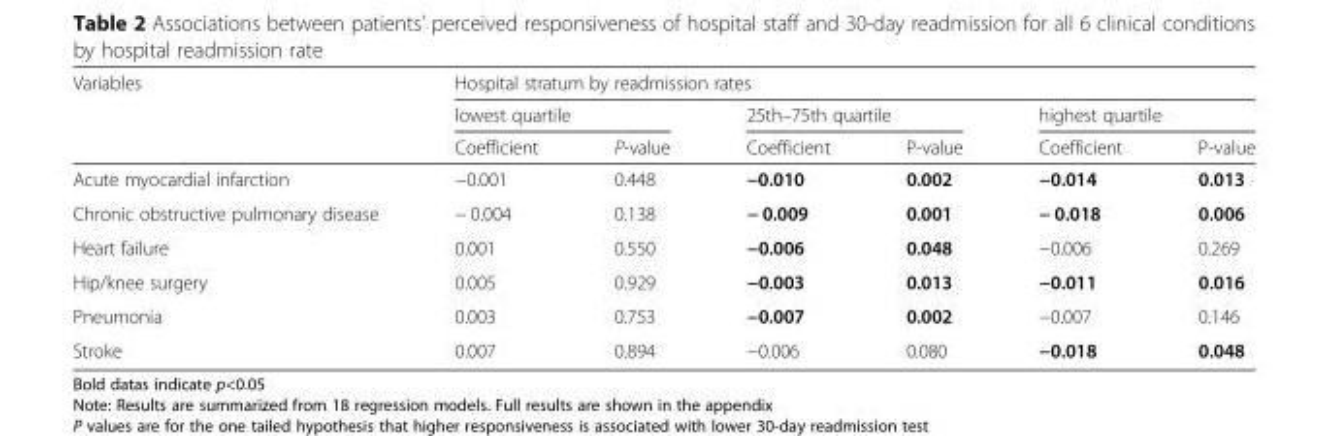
<table><thead><tr><td rowspan="3">Variables</td><td colspan="6">Hospital stratum by readmission rates</td></tr><tr><td colspan="2">lowest quartile</td><td colspan="2">25th–75th quartile</td><td colspan="2">highest quartile</td></tr><tr><td>Coefficient</td><td>P-value</td><td>Coefficient</td><td>P-value</td><td>Coefficient</td><td>P-value</td></tr></thead><tbody><tr><td>Acute myocardial infarction</td><td>−0.001</td><td>0.448</td><td>−0.010</td><td>0.002</td><td>−0.014</td><td>0.013</td></tr><tr><td>Chronic obstructive pulmonary disease</td><td>− 0.004</td><td>0.138</td><td>− 0.009</td><td>0.001</td><td>− 0.018</td><td>0.006</td></tr><tr><td>Heart failure</td><td>0.001</td><td>0.550</td><td>−0.006</td><td>0.048</td><td>−0.006</td><td>0.269</td></tr><tr><td>Hip/knee surgery</td><td>0.005</td><td>0.929</td><td>−0.003</td><td>0.013</td><td>−0.011</td><td>0.016</td></tr><tr><td>Pneumonia</td><td>0.003</td><td>0.753</td><td>−0.007</td><td>0.002</td><td>−0.007</td><td>0.146</td></tr><tr><td>Stroke</td><td>0.007</td><td>0.894</td><td>−0.006</td><td>0.080</td><td>−0.018</td><td>0.048</td></tr></tbody></table>